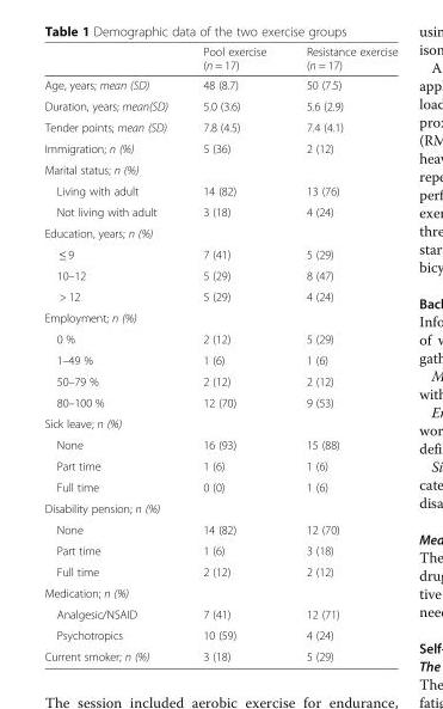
<table><thead><tr><td></td><td>Pool exercise (n = 17)</td><td>Resistance exercise (n = 17)</td></tr></thead><tbody><tr><td>Age, years; mean (SD)</td><td>48 (8.7)</td><td>50 (7.5)</td></tr><tr><td>Duration, years; mean(SD)</td><td>5.0 (3.6)</td><td>5.6 (2.9)</td></tr><tr><td>Tender points; mean (SD)</td><td>7.8 (4.5)</td><td>7.4 (4.1)</td></tr><tr><td>Immigration; n (%)</td><td>5 (36)</td><td>2 (12)</td></tr><tr><td colspan="3">Marital status; n (%)</td></tr><tr><td>Living with adult</td><td>14 (82)</td><td>13 (76)</td></tr><tr><td>Not living with adult</td><td>3 (18)</td><td>4 (24)</td></tr><tr><td colspan="3">Education, years; n (%)</td></tr><tr><td>≤ 9</td><td>7 (41)</td><td>5 (29)</td></tr><tr><td>10–12</td><td>5 (29)</td><td>8 (47)</td></tr><tr><td>&gt; 12</td><td>5 (29)</td><td>4 (24)</td></tr><tr><td colspan="3">Employment; n (%)</td></tr><tr><td>0 %</td><td>2 (12)</td><td>5 (29)</td></tr><tr><td>1–49 %</td><td>1 (6)</td><td>1 (6)</td></tr><tr><td>50–79 %</td><td>2 (12)</td><td>2 (12)</td></tr><tr><td>80–100 %</td><td>12 (70)</td><td>9 (53)</td></tr><tr><td colspan="3">Sick leave; n (%)</td></tr><tr><td>None</td><td>16 (93)</td><td>15 (88)</td></tr><tr><td>Part time</td><td>1 (6)</td><td>1 (6)</td></tr><tr><td>Full time</td><td>0 (0)</td><td>1 (6)</td></tr><tr><td colspan="3">Disability pension; n (%)</td></tr><tr><td>None</td><td>14 (82)</td><td>12 (70)</td></tr><tr><td>Part time</td><td>1 (6)</td><td>3 (18)</td></tr><tr><td>Full time</td><td>2 (12)</td><td>2 (12)</td></tr><tr><td colspan="3">Medication; n (%)</td></tr><tr><td>Analgesic/NSAID</td><td>7 (41)</td><td>12 (71)</td></tr><tr><td>Psychotropics</td><td>10 (59)</td><td>4 (24)</td></tr><tr><td>Current smoker; n (%)</td><td>3 (18)</td><td>5 (29)</td></tr></tbody></table>